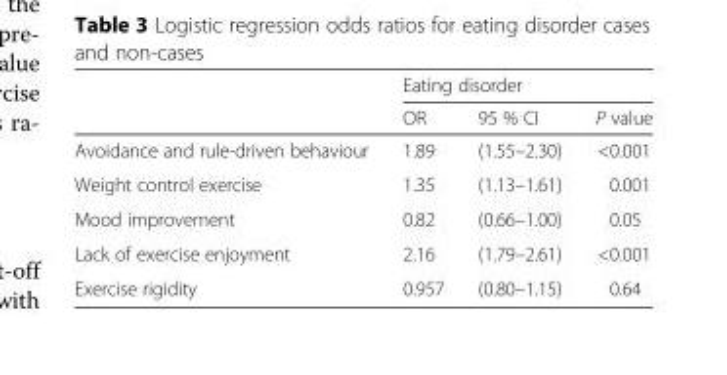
<table><thead><tr><td rowspan="2"></td><td colspan="3">Eating disorder</td></tr><tr><td>OR</td><td>95 % CI</td><td>P value</td></tr></thead><tbody><tr><td>Avoidance and rule-driven behaviour</td><td>1.89</td><td>(1.55–2.30)</td><td>&lt;0.001</td></tr><tr><td>Weight control exercise</td><td>1.35</td><td>(1.13–1.61)</td><td>0.001</td></tr><tr><td>Mood improvement</td><td>0.82</td><td>(0.66–1.00)</td><td>0.05</td></tr><tr><td>Lack of exercise enjoyment</td><td>2.16</td><td>(1.79–2.61)</td><td>&lt;0.001</td></tr><tr><td>Exercise rigidity</td><td>0.957</td><td>(0.80–1.15)</td><td>0.64</td></tr></tbody></table>